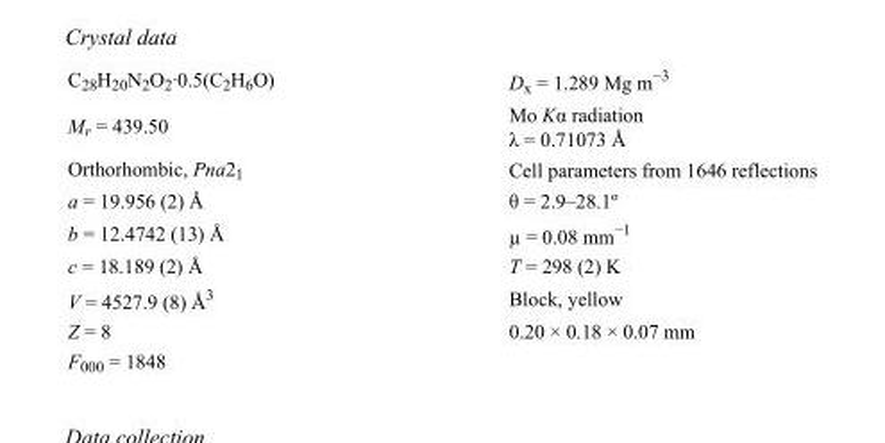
<table><tbody><tr><td>C<sub>28</sub>H<sub>20</sub>N<sub>2</sub>O<sub>2</sub>·0.5(C<sub>2</sub>H<sub>6</sub>O)</td><td>D<sub>x</sub> = 1.289 Mg m<sup>−3</sup></td></tr><tr><td>M<sub>r</sub> = 439.50</td><td>Mo Kα radiation λ = 0.71073 Å</td></tr><tr><td>Orthorhombic, Pna2<sub>1</sub></td><td>Cell parameters from 1646 reflections</td></tr><tr><td>a = 19.956 (2) Å</td><td>θ = 2.9–28.1º</td></tr><tr><td>b = 12.4742 (13) Å</td><td>µ = 0.08 mm<sup>−1</sup></td></tr><tr><td>c = 18.189 (2) Å</td><td>T = 298 (2) K</td></tr><tr><td>V = 4527.9 (8) Å<sup>3</sup></td><td>Block, yellow</td></tr><tr><td>Z = 8</td><td>0.20 × 0.18 × 0.07 mm</td></tr><tr><td>F<sub>000</sub> = 1848</td><td></td></tr></tbody></table>